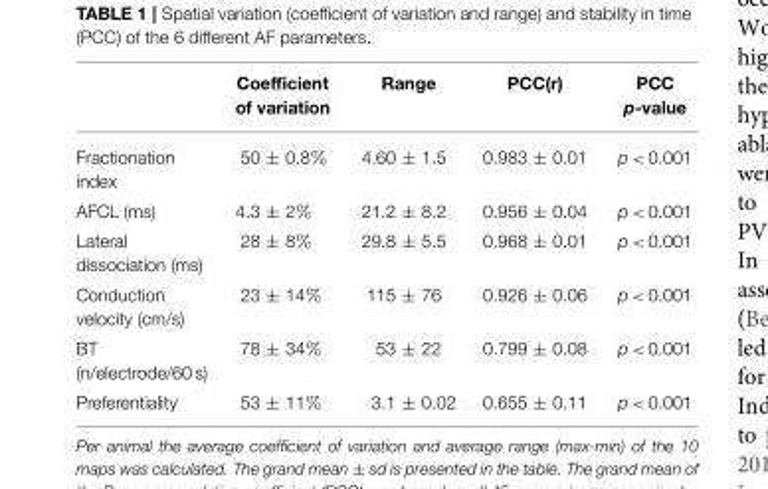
<table><thead><tr><td></td><td>Coefficient of variation</td><td>Range</td><td>PCC(r)</td><td>PCC p-value</td></tr></thead><tbody><tr><td>Fractionation index</td><td>50 ± 0.8%</td><td>4.60 ± 1.5</td><td>0.983 ± 0.01</td><td>p &lt; 0.001</td></tr><tr><td>AFCL (ms)</td><td>4.3 ± 2%</td><td>21.2 ± 8.2</td><td>0.956 ± 0.04</td><td>p &lt; 0.001</td></tr><tr><td>Lateral dissociation (ms)</td><td>28 ± 8%</td><td>29.8 ± 5.5</td><td>0.968 ± 0.01</td><td>p &lt; 0.001</td></tr><tr><td>Conduction velocity (cm/s)</td><td>23 ± 14%</td><td>115 ± 76</td><td>0.926 ± 0.06</td><td>p &lt; 0.001</td></tr><tr><td>BT (n/electrode/60 s)</td><td>78 ± 34%</td><td>53 ± 22</td><td>0.799 ± 0.08</td><td>p &lt; 0.001</td></tr><tr><td>Preferentiality</td><td>53 ± 11%</td><td>3.1 ± 0.02</td><td>0.655 ± 0.11</td><td>p &lt; 0.001</td></tr></tbody></table>